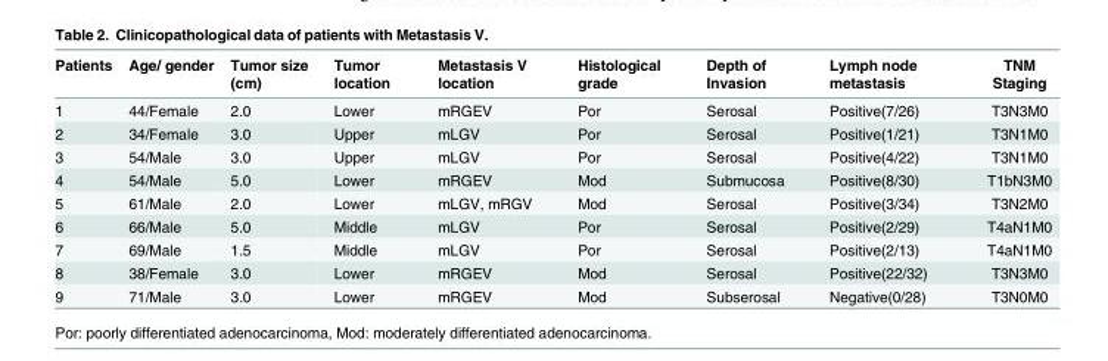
<table><thead><tr><td>Patients</td><td>Age/ gender</td><td>Tumor size (cm)</td><td>Tumor location</td><td>Metastasis V location</td><td>Histological grade</td><td>Depth of Invasion</td><td>Lymph node metastasis</td><td>TNM Staging</td></tr></thead><tbody><tr><td>1</td><td>44/Female</td><td>2.0</td><td>Lower</td><td>mRGEV</td><td>Por</td><td>Serosal</td><td>Positive(7/26)</td><td>T3N3M0</td></tr><tr><td>2</td><td>34/Female</td><td>3.0</td><td>Upper</td><td>mLGV</td><td>Por</td><td>Serosal</td><td>Positive(1/21)</td><td>T3N1M0</td></tr><tr><td>3</td><td>54/Male</td><td>3.0</td><td>Upper</td><td>mLGV</td><td>Por</td><td>Serosal</td><td>Positive(4/22)</td><td>T3N1M0</td></tr><tr><td>4</td><td>54/Male</td><td>5.0</td><td>Lower</td><td>mRGEV</td><td>Mod</td><td>Submucosa</td><td>Positive(8/30)</td><td>T1bN3M0</td></tr><tr><td>5</td><td>61/Male</td><td>2.0</td><td>Lower</td><td>mLGV, mRGV</td><td>Mod</td><td>Serosal</td><td>Positive(3/34)</td><td>T3N2M0</td></tr><tr><td>6</td><td>66/Male</td><td>5.0</td><td>Middle</td><td>mLGV</td><td>Por</td><td>Serosal</td><td>Positive(2/29)</td><td>T4aN1M0</td></tr><tr><td>7</td><td>69/Male</td><td>1.5</td><td>Middle</td><td>mLGV</td><td>Por</td><td>Serosal</td><td>Positive(2/13)</td><td>T4aN1M0</td></tr><tr><td>8</td><td>38/Female</td><td>3.0</td><td>Lower</td><td>mRGEV</td><td>Mod</td><td>Serosal</td><td>Positive(22/32)</td><td>T3N3M0</td></tr><tr><td>9</td><td>71/Male</td><td>3.0</td><td>Lower</td><td>mRGEV</td><td>Mod</td><td>Subserosal</td><td>Negative(0/28)</td><td>T3N0M0</td></tr></tbody></table>